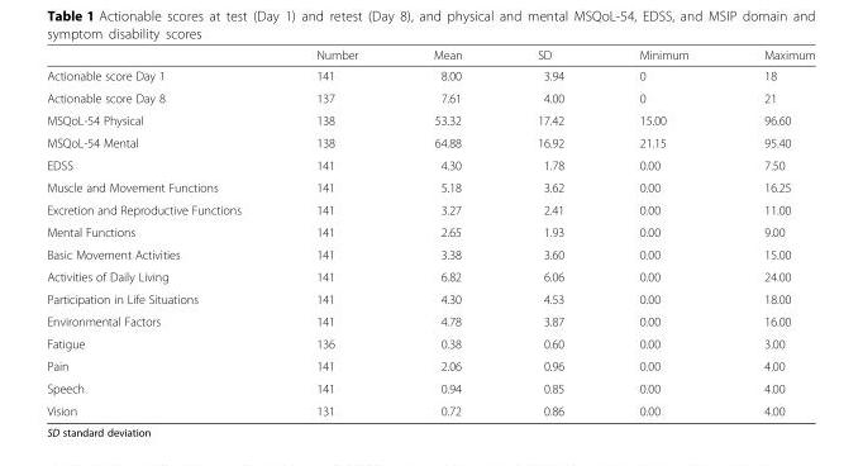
<table><thead><tr><td></td><td>Number</td><td>Mean</td><td>SD</td><td>Minimum</td><td>Maximum</td></tr></thead><tbody><tr><td>Actionable score Day 1</td><td>141</td><td>8.00</td><td>3.94</td><td>0</td><td>18</td></tr><tr><td>Actionable score Day 8</td><td>137</td><td>7.61</td><td>4.00</td><td>0</td><td>21</td></tr><tr><td>MSQoL-54 Physical</td><td>138</td><td>53.32</td><td>17.42</td><td>15.00</td><td>96.60</td></tr><tr><td>MSQoL-54 Mental</td><td>138</td><td>64.88</td><td>16.92</td><td>21.15</td><td>95.40</td></tr><tr><td>EDSS</td><td>141</td><td>4.30</td><td>1.78</td><td>0.00</td><td>7.50</td></tr><tr><td>Muscle and Movement Functions</td><td>141</td><td>5.18</td><td>3.62</td><td>0.00</td><td>16.25</td></tr><tr><td>Excretion and Reproductive Functions</td><td>141</td><td>3.27</td><td>2.41</td><td>0.00</td><td>11.00</td></tr><tr><td>Mental Functions</td><td>141</td><td>2.65</td><td>1.93</td><td>0.00</td><td>9.00</td></tr><tr><td>Basic Movement Activities</td><td>141</td><td>3.38</td><td>3.60</td><td>0.00</td><td>15.00</td></tr><tr><td>Activities of Daily Living</td><td>141</td><td>6.82</td><td>6.06</td><td>0.00</td><td>24.00</td></tr><tr><td>Participation in Life Situations</td><td>141</td><td>4.30</td><td>4.53</td><td>0.00</td><td>18.00</td></tr><tr><td>Environmental Factors</td><td>141</td><td>4.78</td><td>3.87</td><td>0.00</td><td>16.00</td></tr><tr><td>Fatigue</td><td>136</td><td>0.38</td><td>0.60</td><td>0.00</td><td>3.00</td></tr><tr><td>Pain</td><td>141</td><td>2.06</td><td>0.96</td><td>0.00</td><td>4.00</td></tr><tr><td>Speech</td><td>141</td><td>0.94</td><td>0.85</td><td>0.00</td><td>4.00</td></tr><tr><td>Vision</td><td>131</td><td>0.72</td><td>0.86</td><td>0.00</td><td>4.00</td></tr></tbody></table>